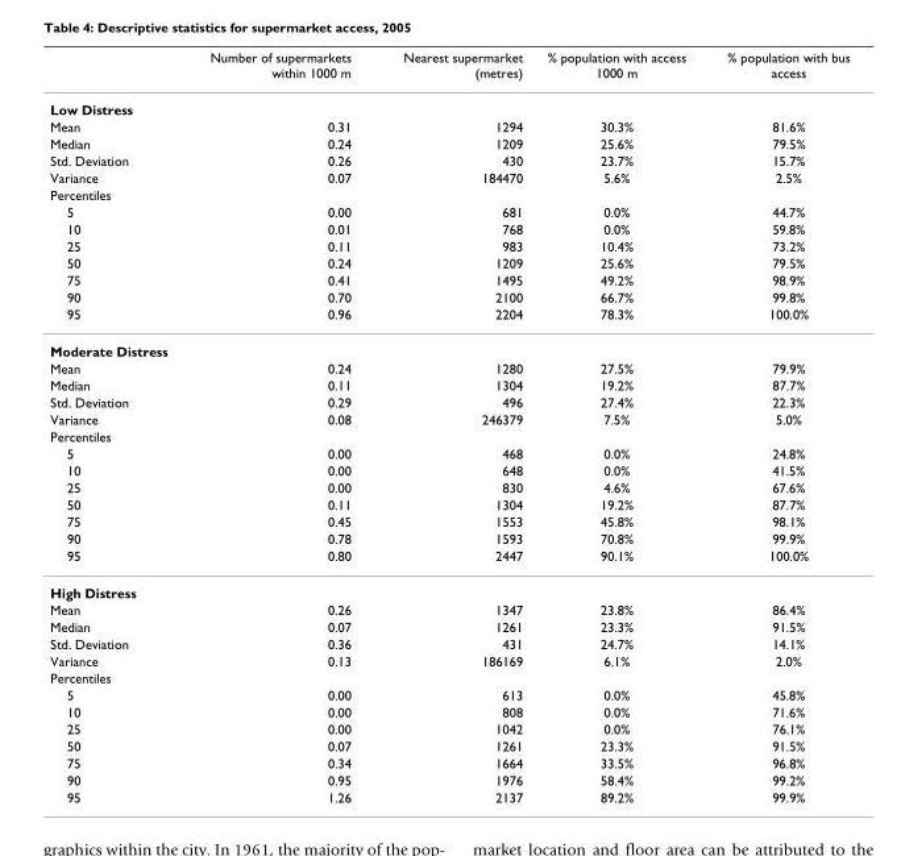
<table><thead><tr><td></td><td>Number of supermarkets within 1000 m</td><td>Nearest supermarket (metres)</td><td>% population with access 1000 m</td><td>% population with bus access</td></tr></thead><tbody><tr><td colspan="5">Low Distress</td></tr><tr><td>Mean</td><td>0.31</td><td>1294</td><td>30.3%</td><td>81.6%</td></tr><tr><td>Median</td><td>0.24</td><td>1209</td><td>25.6%</td><td>79.5%</td></tr><tr><td>Std. Deviation</td><td>0.26</td><td>430</td><td>23.7%</td><td>15.7%</td></tr><tr><td>Variance</td><td>0.07</td><td>184470</td><td>5.6%</td><td>2.5%</td></tr><tr><td colspan="5">Percentiles</td></tr><tr><td>5</td><td>0.00</td><td>681</td><td>0.0%</td><td>44.7%</td></tr><tr><td>10</td><td>0.01</td><td>768</td><td>0.0%</td><td>59.8%</td></tr><tr><td>25</td><td>0.11</td><td>983</td><td>10.4%</td><td>73.2%</td></tr><tr><td>50</td><td>0.24</td><td>1209</td><td>25.6%</td><td>79.5%</td></tr><tr><td>75</td><td>0.41</td><td>1495</td><td>49.2%</td><td>98.9%</td></tr><tr><td>90</td><td>0.70</td><td>2100</td><td>66.7%</td><td>99.8%</td></tr><tr><td>95</td><td>0.96</td><td>2204</td><td>78.3%</td><td>100.0%</td></tr><tr><td colspan="5">Moderate Distress</td></tr><tr><td>Mean</td><td>0.24</td><td>1280</td><td>27.5%</td><td>79.9%</td></tr><tr><td>Median</td><td>0.11</td><td>1304</td><td>19.2%</td><td>87.7%</td></tr><tr><td>Std. Deviation</td><td>0.29</td><td>496</td><td>27.4%</td><td>22.3%</td></tr><tr><td>Variance</td><td>0.08</td><td>246379</td><td>7.5%</td><td>5.0%</td></tr><tr><td colspan="5">Percentiles</td></tr><tr><td>5</td><td>0.00</td><td>468</td><td>0.0%</td><td>24.8%</td></tr><tr><td>10</td><td>0.00</td><td>648</td><td>0.0%</td><td>41.5%</td></tr><tr><td>25</td><td>0.00</td><td>830</td><td>4.6%</td><td>67.6%</td></tr><tr><td>50</td><td>0.11</td><td>1304</td><td>19.2%</td><td>87.7%</td></tr><tr><td>75</td><td>0.45</td><td>1553</td><td>45.8%</td><td>98.1%</td></tr><tr><td>90</td><td>0.78</td><td>1593</td><td>70.8%</td><td>99.9%</td></tr><tr><td>95</td><td>0.80</td><td>2447</td><td>90.1%</td><td>100.0%</td></tr><tr><td colspan="5">High Distress</td></tr><tr><td>Mean</td><td>0.26</td><td>1347</td><td>23.8%</td><td>86.4%</td></tr><tr><td>Median</td><td>0.07</td><td>1261</td><td>23.3%</td><td>91.5%</td></tr><tr><td>Std. Deviation</td><td>0.36</td><td>431</td><td>24.7%</td><td>14.1%</td></tr><tr><td>Variance</td><td>0.13</td><td>186169</td><td>6.1%</td><td>2.0%</td></tr><tr><td colspan="5">Percentiles</td></tr><tr><td>5</td><td>0.00</td><td>613</td><td>0.0%</td><td>45.8%</td></tr><tr><td>10</td><td>0.00</td><td>808</td><td>0.0%</td><td>71.6%</td></tr><tr><td>25</td><td>0.00</td><td>1042</td><td>0.0%</td><td>76.1%</td></tr><tr><td>50</td><td>0.07</td><td>1261</td><td>23.3%</td><td>91.5%</td></tr><tr><td>75</td><td>0.34</td><td>1664</td><td>33.5%</td><td>96.8%</td></tr><tr><td>90</td><td>0.95</td><td>1976</td><td>58.4%</td><td>99.2%</td></tr><tr><td>95</td><td>1.26</td><td>2137</td><td>89.2%</td><td>99.9%</td></tr></tbody></table>